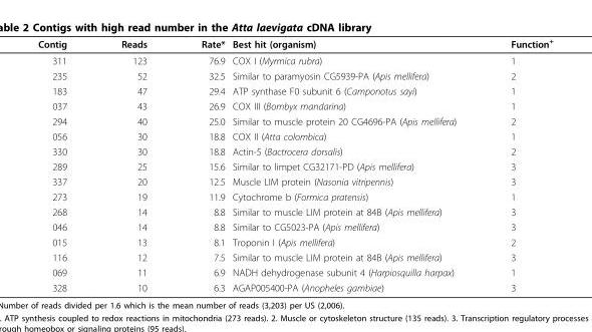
<table><thead><tr><td>Contig</td><td>Reads</td><td>Rate*</td><td>Best hit (organism)</td><td>Function<sup>+</sup></td></tr></thead><tbody><tr><td>311</td><td>123</td><td>76.9</td><td>COX I (Myrmica rubra)</td><td>1</td></tr><tr><td>235</td><td>52</td><td>32.5</td><td>Similar to paramyosin CG5939-PA (Apis mellifera)</td><td>2</td></tr><tr><td>183</td><td>47</td><td>29.4</td><td>ATP synthase F0 subunit 6 (Camponotus sayi)</td><td>1</td></tr><tr><td>037</td><td>43</td><td>26.9</td><td>COX III (Bombyx mandarina)</td><td>1</td></tr><tr><td>294</td><td>40</td><td>25.0</td><td>Similar to muscle protein 20 CG4696-PA (Apis mellifera)</td><td>2</td></tr><tr><td>056</td><td>30</td><td>18.8</td><td>COX II (Atta colombica)</td><td>1</td></tr><tr><td>330</td><td>30</td><td>18.8</td><td>Actin-5 (Bactrocera dorsalis)</td><td>2</td></tr><tr><td>289</td><td>25</td><td>15.6</td><td>Similar to limpet CG32171-PD (Apis mellifera)</td><td>3</td></tr><tr><td>337</td><td>20</td><td>12.5</td><td>Muscle LIM protein (Nasonia vitripennis)</td><td>3</td></tr><tr><td>273</td><td>19</td><td>11.9</td><td>Cytochrome b (Formica pratensis)</td><td>1</td></tr><tr><td>268</td><td>14</td><td>8.8</td><td>Similar to muscle LIM protein at 84B (Apis mellifera)</td><td>3</td></tr><tr><td>046</td><td>14</td><td>8.8</td><td>Similar to CG5023-PA (Apis mellifera)</td><td>3</td></tr><tr><td>015</td><td>13</td><td>8.1</td><td>Troponin I (Apis mellifera)</td><td>2</td></tr><tr><td>116</td><td>12</td><td>7.5</td><td>Similar to muscle LIM protein at 84B (Apis mellifera)</td><td>3</td></tr><tr><td>069</td><td>11</td><td>6.9</td><td>NADH dehydrogenase subunit 4 (Harpiosquilla harpax)</td><td>1</td></tr><tr><td>328</td><td>10</td><td>6.3</td><td>AGAP005400-PA (Anopheles gambiae)</td><td>3</td></tr></tbody></table>